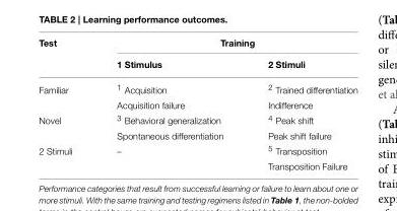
<table><thead><tr><td rowspan="2">Test</td><td colspan="2">Training</td></tr><tr><td>1 Stimulus</td><td>2 Stimuli</td></tr></thead><tbody><tr><td rowspan="2">Familiar</td><td><sup>1</sup> Acquisition</td><td><sup>2</sup> Trained differentiation</td></tr><tr><td>Acquisition failure</td><td>Indifference</td></tr><tr><td rowspan="2">Novel</td><td><sup>3</sup> Behavioral generalization</td><td><sup>4</sup> Peak shift</td></tr><tr><td>Spontaneous differentiation</td><td>Peak shift failure</td></tr><tr><td rowspan="2">2 Stimuli</td><td>–</td><td><sup>5</sup> Transposition</td></tr><tr><td></td><td>Transposition Failure</td></tr></tbody></table>